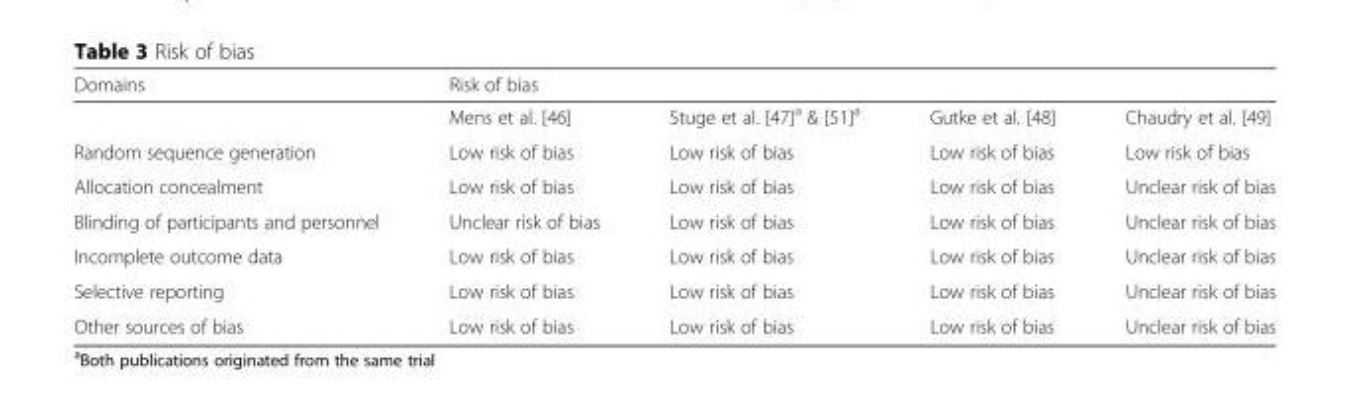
<table><thead><tr><td rowspan="2">Domains</td><td colspan="4">Risk of bias</td></tr><tr><td>Mens et al. [46]</td><td>Stuge et al. [47]<sup>a</sup> &amp; [51]<sup>a</sup></td><td>Gutke et al. [48]</td><td>Chaudry et al. [49]</td></tr></thead><tbody><tr><td>Random sequence generation</td><td>Low risk of bias</td><td>Low risk of bias</td><td>Low risk of bias</td><td>Low risk of bias</td></tr><tr><td>Allocation concealment</td><td>Low risk of bias</td><td>Low risk of bias</td><td>Low risk of bias</td><td>Unclear risk of bias</td></tr><tr><td>Blinding of participants and personnel</td><td>Unclear risk of bias</td><td>Low risk of bias</td><td>Low risk of bias</td><td>Unclear risk of bias</td></tr><tr><td>Incomplete outcome data</td><td>Low risk of bias</td><td>Low risk of bias</td><td>Low risk of bias</td><td>Unclear risk of bias</td></tr><tr><td>Selective reporting</td><td>Low risk of bias</td><td>Low risk of bias</td><td>Low risk of bias</td><td>Unclear risk of bias</td></tr><tr><td>Other sources of bias</td><td>Low risk of bias</td><td>Low risk of bias</td><td>Low risk of bias</td><td>Unclear risk of bias</td></tr></tbody></table>